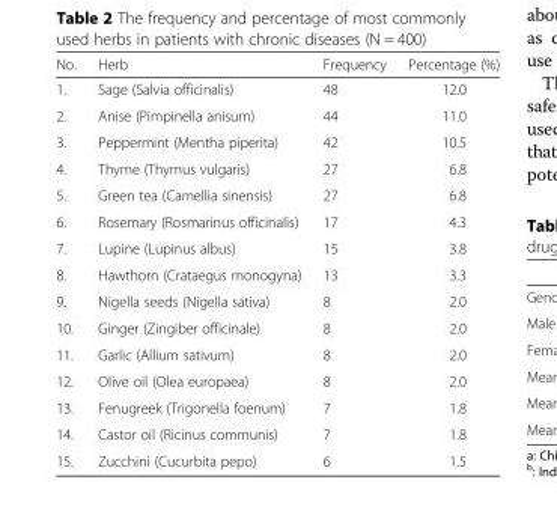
<table><thead><tr><td>No.</td><td>Herb</td><td>Frequency</td><td>Percentage (%)</td></tr></thead><tbody><tr><td>1.</td><td>Sage (Salvia officinalis)</td><td>48</td><td>12.0</td></tr><tr><td>2.</td><td>Anise (Pimpinella anisum)</td><td>44</td><td>11.0</td></tr><tr><td>3.</td><td>Peppermint (Mentha piperita)</td><td>42</td><td>10.5</td></tr><tr><td>4.</td><td>Thyme (Thymus vulgaris)</td><td>27</td><td>6.8</td></tr><tr><td>5.</td><td>Green tea (Camellia sinensis)</td><td>27</td><td>6.8</td></tr><tr><td>6.</td><td>Rosemary (Rosmarinus officinalis)</td><td>17</td><td>4.3</td></tr><tr><td>7.</td><td>Lupine (Lupinus albus)</td><td>15</td><td>3.8</td></tr><tr><td>8.</td><td>Hawthorn (Crataegus monogyna)</td><td>13</td><td>3.3</td></tr><tr><td>9.</td><td>Nigella seeds (Nigella sativa)</td><td>8</td><td>2.0</td></tr><tr><td>10.</td><td>Ginger (Zingiber officinale)</td><td>8</td><td>2.0</td></tr><tr><td>11.</td><td>Garlic (Allium sativum)</td><td>8</td><td>2.0</td></tr><tr><td>12.</td><td>Olive oil (Olea europaea)</td><td>8</td><td>2.0</td></tr><tr><td>13.</td><td>Fenugreek (Trigonella foenum)</td><td>7</td><td>1.8</td></tr><tr><td>14.</td><td>Castor oil (Ricinus communis)</td><td>7</td><td>1.8</td></tr><tr><td>15.</td><td>Zucchini (Cucurbita pepo)</td><td>6</td><td>1.5</td></tr></tbody></table>